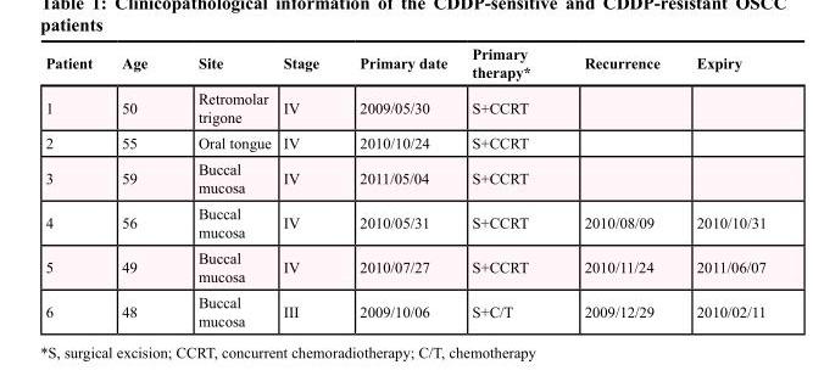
<table><thead><tr><td>Patient</td><td>Age</td><td>Site</td><td>Stage</td><td>Primary date</td><td>Primary therapy*</td><td>Recurrence</td><td>Expiry</td></tr></thead><tbody><tr><td>1</td><td>50</td><td>Retromolar trigone</td><td>IV</td><td>2009/05/30</td><td>S+CCRT</td><td></td><td></td></tr><tr><td>2</td><td>55</td><td>Oral tongue</td><td>IV</td><td>2010/10/24</td><td>S+CCRT</td><td></td><td></td></tr><tr><td>3</td><td>59</td><td>Buccal mucosa</td><td>IV</td><td>2011/05/04</td><td>S+CCRT</td><td></td><td></td></tr><tr><td>4</td><td>56</td><td>Buccal mucosa</td><td>IV</td><td>2010/05/31</td><td>S+CCRT</td><td>2010/08/09</td><td>2010/10/31</td></tr><tr><td>5</td><td>49</td><td>Buccal mucosa</td><td>IV</td><td>2010/07/27</td><td>S+CCRT</td><td>2010/11/24</td><td>2011/06/07</td></tr><tr><td>6</td><td>48</td><td>Buccal mucosa</td><td>III</td><td>2009/10/06</td><td>S+C/T</td><td>2009/12/29</td><td>2010/02/11</td></tr></tbody></table>